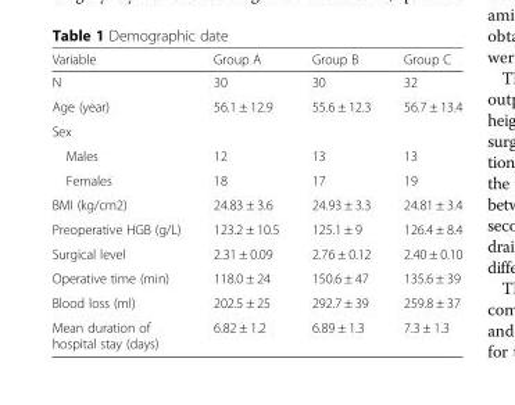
<table><thead><tr><td>Variable</td><td>Group A</td><td>Group B</td><td>Group C</td></tr></thead><tbody><tr><td>N</td><td>30</td><td>30</td><td>32</td></tr><tr><td>Age (year)</td><td>56.1 ± 12.9</td><td>55.6 ± 12.3</td><td>56.7 ± 13.4</td></tr><tr><td colspan="4">Sex</td></tr><tr><td>Males</td><td>12</td><td>13</td><td>13</td></tr><tr><td>Females</td><td>18</td><td>17</td><td>19</td></tr><tr><td>BMI (kg/cm2)</td><td>24.83 ± 3.6</td><td>24.93 ± 3.3</td><td>24.81 ± 3.4</td></tr><tr><td>Preoperative HGB (g/L)</td><td>123.2 ± 10.5</td><td>125.1 ± 9</td><td>126.4 ± 8.4</td></tr><tr><td>Surgical level</td><td>2.31 ± 0.09</td><td>2.76 ± 0.12</td><td>2.40 ± 0.10</td></tr><tr><td>Operative time (min)</td><td>118.0 ± 24</td><td>150.6 ± 47</td><td>135.6 ± 39</td></tr><tr><td>Blood loss (ml)</td><td>202.5 ± 25</td><td>292.7 ± 39</td><td>259.8 ± 37</td></tr><tr><td>Mean duration of hospital stay (days)</td><td>6.82 ± 1.2</td><td>6.89 ± 1.3</td><td>7.3 ± 1.3</td></tr></tbody></table>